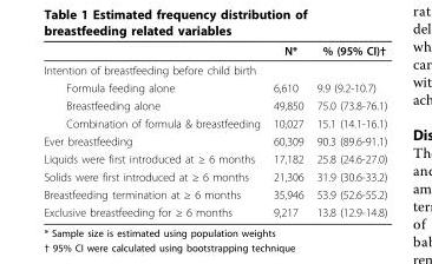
<table><thead><tr><td></td><td>N*</td><td>% (95% CI)†</td></tr></thead><tbody><tr><td colspan="3">Intention of breastfeeding before child birth</td></tr><tr><td>Formula feeding alone</td><td>6,610</td><td>9.9 (9.2-10.7)</td></tr><tr><td>Breastfeeding alone</td><td>49,850</td><td>75.0 (73.8-76.1)</td></tr><tr><td>Combination of formula &amp; breastfeeding</td><td>10,027</td><td>15.1 (14.1-16.1)</td></tr><tr><td>Ever breastfeeding</td><td>60,309</td><td>90.3 (89.6-91.1)</td></tr><tr><td>Liquids were first introduced at ≥ 6 months</td><td>17,182</td><td>25.8 (24.6-27.0)</td></tr><tr><td>Solids were first introduced at ≥ 6 months</td><td>21,306</td><td>31.9 (30.6-33.2)</td></tr><tr><td>Breastfeeding termination at ≥ 6 months</td><td>35,946</td><td>53.9 (52.6-55.2)</td></tr><tr><td>Exclusive breastfeeding for ≥ 6 months</td><td>9,217</td><td>13.8 (12.9-14.8)</td></tr></tbody></table>